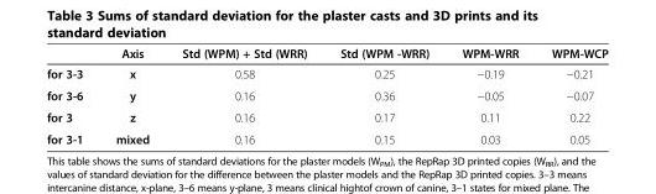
<table><thead><tr><td></td><td>Axis</td><td>Std (WPM) + Std (WRR)</td><td>Std (WPM -WRR)</td><td>WPM-WRR</td><td>WPM-WCP</td></tr></thead><tbody><tr><td>for 3-3</td><td>x</td><td>0.58</td><td>0.25</td><td>−0.19</td><td>−0.21</td></tr><tr><td>for 3-6</td><td>y</td><td>0.16</td><td>0.36</td><td>−0.05</td><td>−0.07</td></tr><tr><td>for 3</td><td>z</td><td>0.16</td><td>0.17</td><td>0.11</td><td>0.22</td></tr><tr><td>for 3-1</td><td>mixed</td><td>0.16</td><td>0.15</td><td>0.03</td><td>0.05</td></tr></tbody></table>